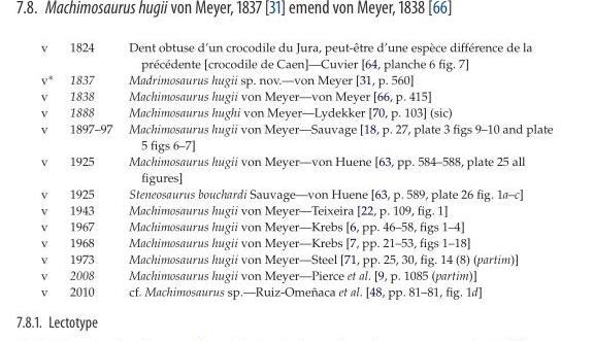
<table><tbody><tr><td>v</td><td>1824</td><td>Dent obtuse d’un crocodile du Jura, peut-être d’une espèce différence de la précédente [crocodile de Caen]—Cuvier [64, planche 6 fig. 7]</td></tr><tr><td>v∗</td><td>1837</td><td>Madrimosaurus hugii sp. nov.—von Meyer [31, p. 560]</td></tr><tr><td>v</td><td>1838</td><td>Machimosaurus hugii von Meyer—von Meyer [66, p. 415]</td></tr><tr><td>v</td><td>1888</td><td>Machimosaurus hughi von Meyer—Lydekker [70, p. 103] (sic)</td></tr><tr><td>v</td><td>1897–97</td><td>Machimosaurus hugii von Meyer—Sauvage [18, p. 27, plate 3 figs 9–10 and plate 5 figs 6–7]</td></tr><tr><td>v</td><td>1925</td><td>Machimosaurus hugii von Meyer—von Huene [63, pp. 584–588, plate 25 all figures]</td></tr><tr><td>v</td><td>1925</td><td>Steneosaurus bouchardi Sauvage—von Huene [63, p. 589, plate 26 fig. 1a–c]</td></tr><tr><td>v</td><td>1943</td><td>Machimosaurus hugii von Meyer—Teixeira [22, p. 109, fig. 1]</td></tr><tr><td>v</td><td>1967</td><td>Machimosaurus hugii von Meyer—Krebs [6, pp. 46–58, figs 1–4]</td></tr><tr><td>v</td><td>1968</td><td>Machimosaurus hugii von Meyer—Krebs [7, pp. 21–53, figs 1–18]</td></tr><tr><td>v</td><td>1973</td><td>Machimosaurus hugii von Meyer—Steel [71, pp. 25, 30, fig. 14 (8) (partim)]</td></tr><tr><td>v</td><td>2008</td><td>Machimosaurus hugii von Meyer—Pierce et al. [9, p. 1085 (partim)]</td></tr><tr><td>v</td><td>2010</td><td>cf. Machimosaurus sp.—Ruiz-Omeñaca et al. [48, pp. 81–81, fig. 1d]</td></tr></tbody></table>